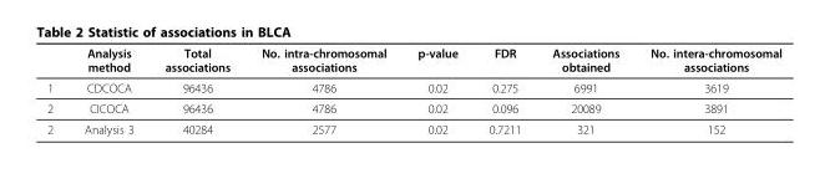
<table><thead><tr><td></td><td>Analysis method</td><td>Total associations</td><td>No. intra-chromosomal associations</td><td>p-value</td><td>FDR</td><td>Associations obtained</td><td>No. intera-chromosomal associations</td></tr></thead><tbody><tr><td>1</td><td>CDCOCA</td><td>96436</td><td>4786</td><td>0.02</td><td>0.275</td><td>6991</td><td>3619</td></tr><tr><td>2</td><td>CICOCA</td><td>96436</td><td>4786</td><td>0.02</td><td>0.096</td><td>20089</td><td>3891</td></tr><tr><td>2</td><td>Analysis 3</td><td>40284</td><td>2577</td><td>0.02</td><td>0.7211</td><td>321</td><td>152</td></tr></tbody></table>